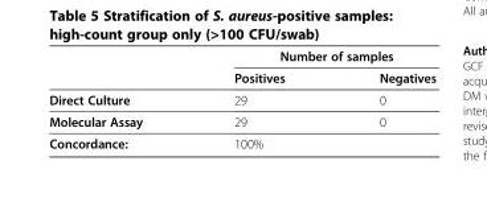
<table><thead><tr><td rowspan="2"></td><td colspan="2">Number of samples</td></tr><tr><td>Positives</td><td>Negatives</td></tr></thead><tbody><tr><td>Direct Culture</td><td>29</td><td>0</td></tr><tr><td>Molecular Assay</td><td>29</td><td>0</td></tr><tr><td>Concordance:</td><td>100%</td><td></td></tr></tbody></table>